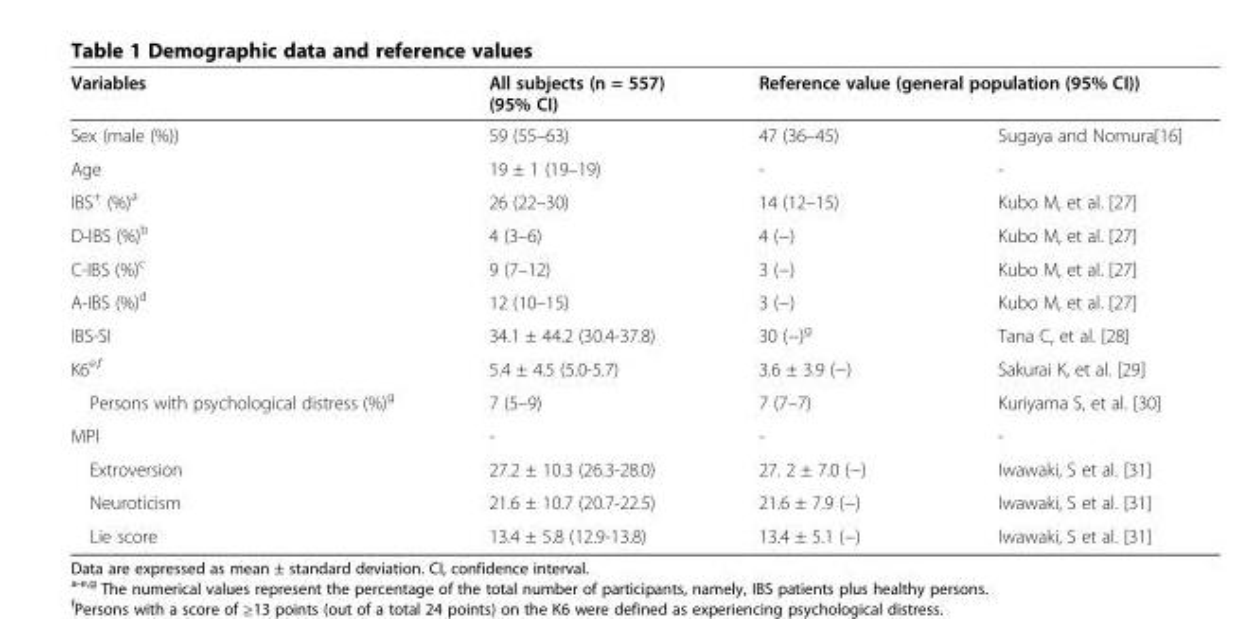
<table><thead><tr><td rowspan="2">Variables Sex (male (%))</td><td rowspan="2">All subjects (n = 557) (95% CI) 59 (55–63)</td><td colspan="2">Reference value (general population (95% CI))</td></tr><tr><td>47 (36–45)</td><td>Sugaya and Nomura[16]</td></tr></thead><tbody><tr><td>Age</td><td>19 ± 1 (19–19)</td><td>-</td><td>-</td></tr><tr><td>IBS<sup>+</sup> (%)<sup>a</sup></td><td>26 (22–30)</td><td>14 (12–15)</td><td>Kubo M, et al. [27]</td></tr><tr><td>D-IBS (%)<sup>b</sup></td><td>4 (3–6)</td><td>4 (−)</td><td>Kubo M, et al. [27]</td></tr><tr><td>C-IBS (%)<sup>c</sup></td><td>9 (7–12)</td><td>3 (−)</td><td>Kubo M, et al. [27]</td></tr><tr><td>A-IBS (%)<sup>d</sup></td><td>12 (10–15)</td><td>3 (−)</td><td>Kubo M, et al. [27]</td></tr><tr><td>IBS-SI</td><td>34.1 ± 44.2 (30.4-37.8)</td><td>30 (−)<sup>g</sup></td><td>Tana C, et al. [28]</td></tr><tr><td>K6<sup>e,f</sup></td><td>5.4 ± 4.5 (5.0-5.7)</td><td>3.6 ± 3.9 (−)</td><td>Sakurai K, et al. [29]</td></tr><tr><td>Persons with psychological distress (%)<sup>g</sup></td><td>7 (5–9)</td><td>7 (7–7)</td><td>Kuriyama S, et al. [30]</td></tr><tr><td>MPI</td><td>-</td><td>-</td><td>-</td></tr><tr><td>Extroversion</td><td>27.2 ± 10.3 (26.3-28.0)</td><td>27. 2 ± 7.0 (−)</td><td>Iwawaki, S et al. [31]</td></tr><tr><td>Neuroticism</td><td>21.6 ± 10.7 (20.7-22.5)</td><td>21.6 ± 7.9 (−)</td><td>Iwawaki, S et al. [31]</td></tr><tr><td>Lie score</td><td>13.4 ± 5.8 (12.9-13.8)</td><td>13.4 ± 5.1 (−)</td><td>Iwawaki, S et al. [31]</td></tr></tbody></table>